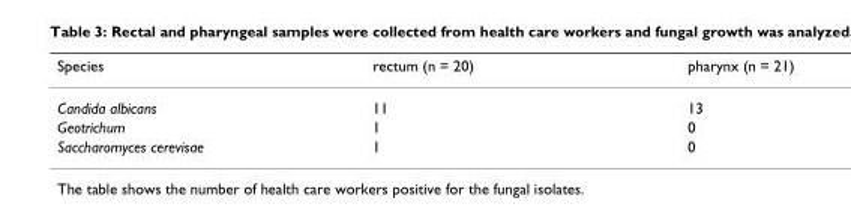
<table><thead><tr><td>Species</td><td>rectum (n = 20)</td><td>pharynx (n = 21)</td></tr></thead><tbody><tr><td>Candida albicans</td><td>11</td><td>13</td></tr><tr><td>Geotrichum</td><td>1</td><td>0</td></tr><tr><td>Saccharomyces cerevisae</td><td>1</td><td>0</td></tr></tbody></table>